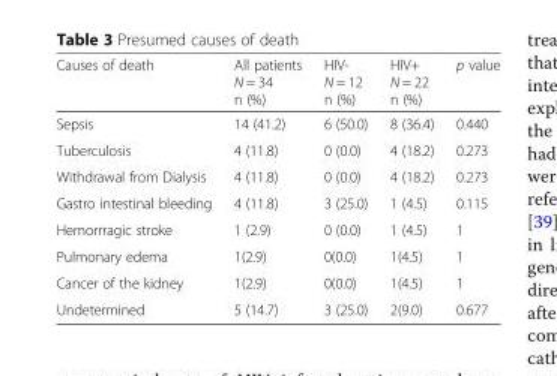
<table><thead><tr><td>Causes of death</td><td>All patients N = 34 n (%)</td><td>HIV- N = 12 n (%)</td><td>HIV+ N = 22 n (%)</td><td>p value</td></tr></thead><tbody><tr><td>Sepsis</td><td>14 (41.2)</td><td>6 (50.0)</td><td>8 (36.4)</td><td>0.440</td></tr><tr><td>Tuberculosis</td><td>4 (11.8)</td><td>0 (0.0)</td><td>4 (18.2)</td><td>0.273</td></tr><tr><td>Withdrawal from Dialysis</td><td>4 (11.8)</td><td>0 (0.0)</td><td>4 (18.2)</td><td>0.273</td></tr><tr><td>Gastro intestinal bleeding</td><td>4 (11.8)</td><td>3 (25.0)</td><td>1 (4.5)</td><td>0.115</td></tr><tr><td>Hemorrragic stroke</td><td>1 (2.9)</td><td>0 (0.0)</td><td>1 (4.5)</td><td>1</td></tr><tr><td>Pulmonary edema</td><td>1(2.9)</td><td>0(0.0)</td><td>1(4.5)</td><td>1</td></tr><tr><td>Cancer of the kidney</td><td>1(2.9)</td><td>0(0.0)</td><td>1(4.5)</td><td>1</td></tr><tr><td>Undetermined</td><td>5 (14.7)</td><td>3 (25.0)</td><td>2(9.0)</td><td>0.677</td></tr></tbody></table>